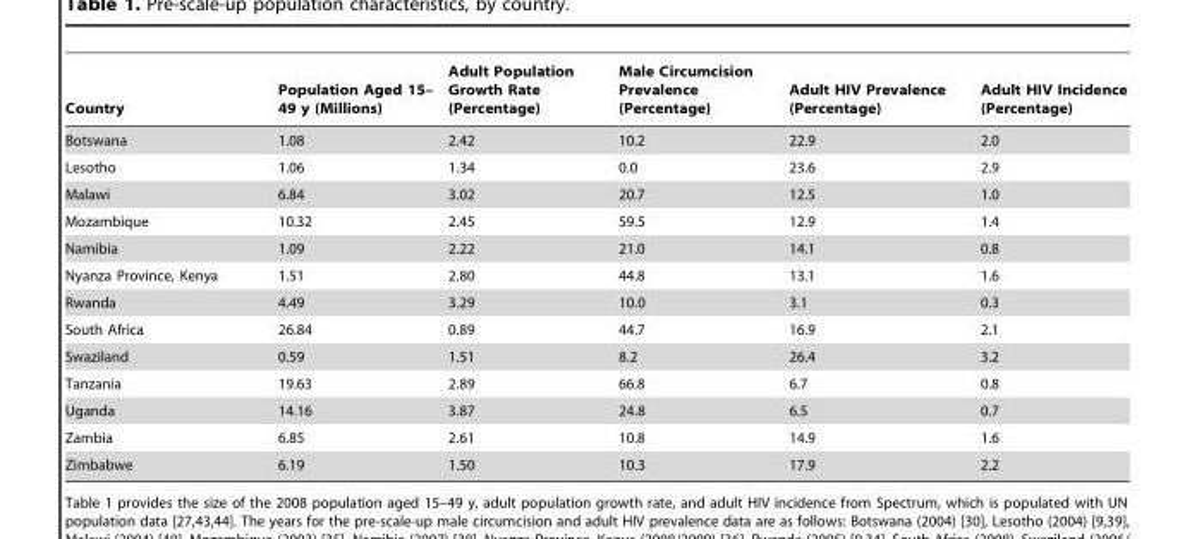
<table><thead><tr><td>Country</td><td>Population Aged 15– 49 y (Millions)</td><td>Adult Population Growth Rate (Percentage)</td><td>Male Circumcision Prevalence (Percentage)</td><td>Adult HIV Prevalence (Percentage)</td><td>Adult HIV Incidence (Percentage)</td></tr></thead><tbody><tr><td>Botswana</td><td>1.08</td><td>2.42</td><td>10.2</td><td>22.9</td><td>2.0</td></tr><tr><td>Lesotho</td><td>1.06</td><td>1.34</td><td>0.0</td><td>23.6</td><td>2.9</td></tr><tr><td>Malawi</td><td>6.84</td><td>3.02</td><td>20.7</td><td>12.5</td><td>1.0</td></tr><tr><td>Mozambique</td><td>10.32</td><td>2.45</td><td>59.5</td><td>12.9</td><td>1.4</td></tr><tr><td>Namibia</td><td>1.09</td><td>2.22</td><td>21.0</td><td>14.1</td><td>0.8</td></tr><tr><td>Nyanza Province, Kenya</td><td>1.51</td><td>2.80</td><td>44.8</td><td>13.1</td><td>1.6</td></tr><tr><td>Rwanda</td><td>4.49</td><td>3.29</td><td>10.0</td><td>3.1</td><td>0.3</td></tr><tr><td>South Africa</td><td>26.84</td><td>0.89</td><td>44.7</td><td>16.9</td><td>2.1</td></tr><tr><td>Swaziland</td><td>0.59</td><td>1.51</td><td>8.2</td><td>26.4</td><td>3.2</td></tr><tr><td>Tanzania</td><td>19.63</td><td>2.89</td><td>66.8</td><td>6.7</td><td>0.8</td></tr><tr><td>Uganda</td><td>14.16</td><td>3.87</td><td>24.8</td><td>6.5</td><td>0.7</td></tr><tr><td>Zambia</td><td>6.85</td><td>2.61</td><td>10.8</td><td>14.9</td><td>1.6</td></tr><tr><td>Zimbabwe</td><td>6.19</td><td>1.50</td><td>10.3</td><td>17.9</td><td>2.2</td></tr></tbody></table>